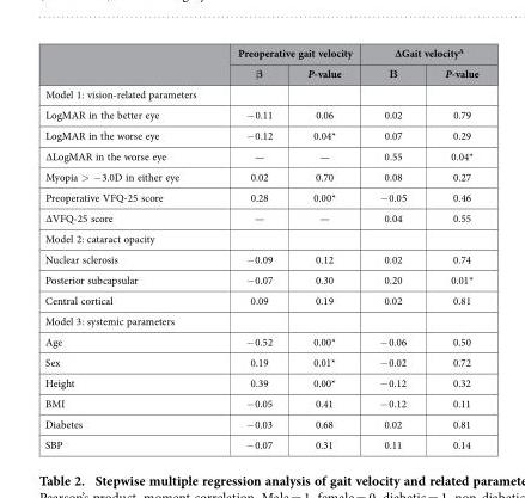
<table><thead><tr><td rowspan="2"></td><td colspan="2">Preoperative gait velocity</td><td colspan="2">∆Gait velocity<sup>A</sup></td></tr><tr><td>β</td><td>P-value</td><td>Β</td><td>P-value</td></tr></thead><tbody><tr><td colspan="5">Model 1: vision-related parameters</td></tr><tr><td>LogMAR in the better eye</td><td>− 0.11</td><td>0.06</td><td>0.02</td><td>0.79</td></tr><tr><td>LogMAR in the worse eye</td><td>− 0.12</td><td>0.04*</td><td>0.07</td><td>0.29</td></tr><tr><td>∆LogMAR in the worse eye</td><td>—</td><td>—</td><td>0.55</td><td>0.04*</td></tr><tr><td>Myopia &gt; − 3.0D in either eye</td><td>0.02</td><td>0.70</td><td>0.08</td><td>0.27</td></tr><tr><td>Preoperative VFQ-25 score</td><td>0.28</td><td>0.00*</td><td>− 0.05</td><td>0.46</td></tr><tr><td>∆VFQ-25 score</td><td>—</td><td>—</td><td>0.04</td><td>0.55</td></tr><tr><td colspan="5">Model 2: cataract opacity</td></tr><tr><td>Nuclear sclerosis</td><td>− 0.09</td><td>0.12</td><td>0.02</td><td>0.74</td></tr><tr><td>Posterior subcapsular</td><td>− 0.07</td><td>0.30</td><td>0.20</td><td>0.01*</td></tr><tr><td>Central cortical</td><td>0.09</td><td>0.19</td><td>0.02</td><td>0.81</td></tr><tr><td colspan="5">Model 3: systemic parameters</td></tr><tr><td>Age</td><td>− 0.52</td><td>0.00*</td><td>− 0.06</td><td>0.50</td></tr><tr><td>Sex</td><td>0.19</td><td>0.01*</td><td>− 0.02</td><td>0.72</td></tr><tr><td>Height</td><td>0.39</td><td>0.00*</td><td>− 0.12</td><td>0.32</td></tr><tr><td>BMI</td><td>− 0.05</td><td>0.41</td><td>− 0.12</td><td>0.11</td></tr><tr><td>Diabetes</td><td>− 0.03</td><td>0.68</td><td>0.02</td><td>0.81</td></tr><tr><td>SBP</td><td>− 0.07</td><td>0.31</td><td>0.11</td><td>0.14</td></tr></tbody></table>